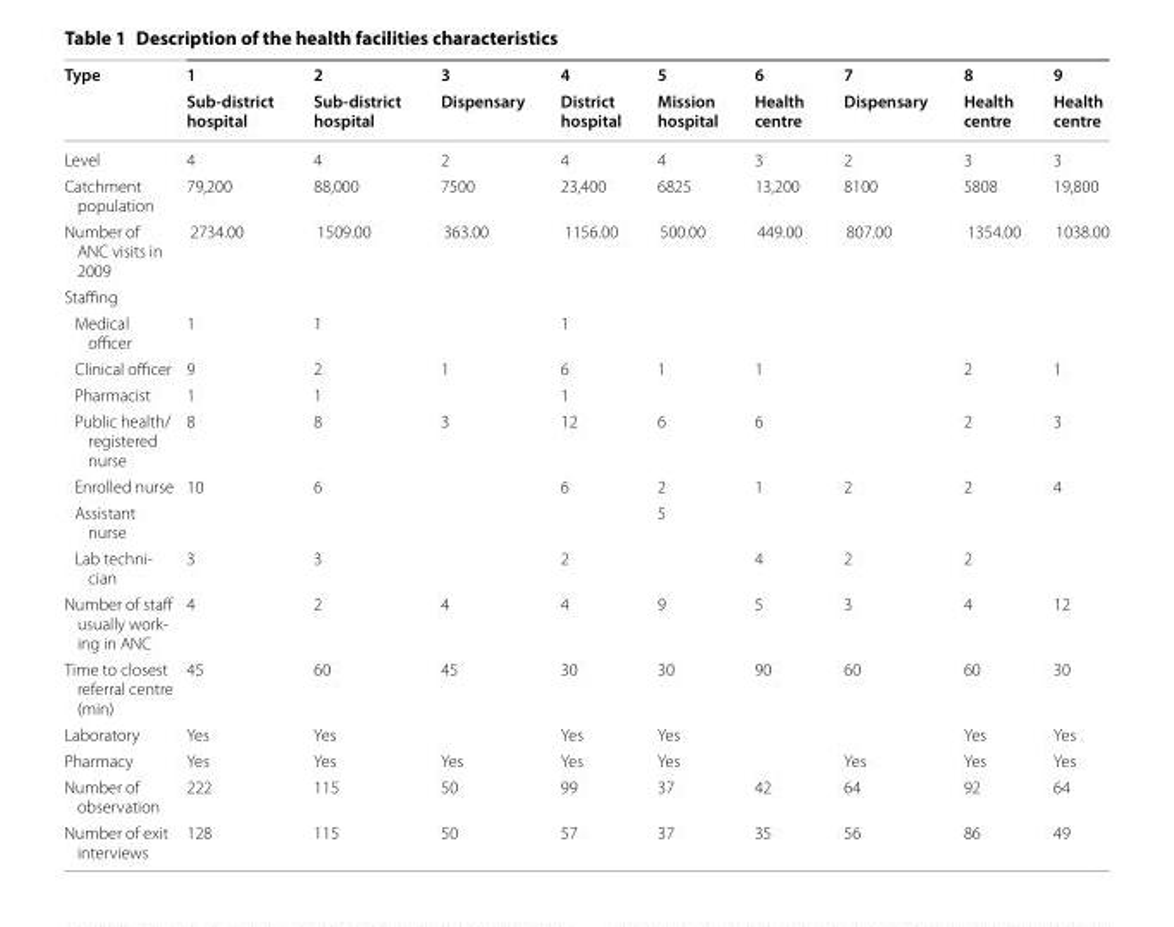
<table><thead><tr><td rowspan="2">Type</td><td rowspan="2">1 Sub‑district hospital</td><td rowspan="2">2 Sub‑district hospital</td><td rowspan="2">3 Dispensary</td><td rowspan="2">4 District hospital</td><td rowspan="2">5 Mission hospital</td><td rowspan="2">6 Health centre</td><td rowspan="2">7 Dispensary</td><td rowspan="2">8 Health centre</td><td rowspan="2">9 Health centre</td></tr><tr></tr></thead><tbody><tr><td>Level</td><td>4</td><td>4</td><td>2</td><td>4</td><td>4</td><td>3</td><td>2</td><td>3</td><td>3</td></tr><tr><td>Catchment population</td><td>79,200</td><td>88,000</td><td>7500</td><td>23,400</td><td>6825</td><td>13,200</td><td>8100</td><td>5808</td><td>19,800</td></tr><tr><td>Number of ANC visits in 2009</td><td>2734.00</td><td>1509.00</td><td>363.00</td><td>1156.00</td><td>500.00</td><td>449.00</td><td>807.00</td><td>1354.00</td><td>1038.00</td></tr><tr><td colspan="10">Staffing</td></tr><tr><td>Medical officer</td><td>1</td><td>1</td><td></td><td>1</td><td></td><td></td><td></td><td></td><td></td></tr><tr><td>Clinical officer</td><td>9</td><td>2</td><td>1</td><td>6</td><td>1</td><td>1</td><td></td><td>2</td><td>1</td></tr><tr><td>Pharmacist</td><td>1</td><td>1</td><td></td><td>1</td><td></td><td></td><td></td><td></td><td></td></tr><tr><td>Public health/ registered nurse</td><td>8</td><td>8</td><td>3</td><td>12</td><td>6</td><td>6</td><td></td><td>2</td><td>3</td></tr><tr><td>Enrolled nurse</td><td>10</td><td>6</td><td></td><td>6</td><td>2</td><td>1</td><td>2</td><td>2</td><td>4</td></tr><tr><td>Assistant nurse</td><td></td><td></td><td></td><td></td><td>5</td><td></td><td></td><td></td><td></td></tr><tr><td>Lab techni- cian</td><td>3</td><td>3</td><td></td><td>2</td><td></td><td>4</td><td>2</td><td>2</td><td></td></tr><tr><td>Number of staff usually work- ing in ANC</td><td>4</td><td>2</td><td>4</td><td>4</td><td>9</td><td>5</td><td>3</td><td>4</td><td>12</td></tr><tr><td>Time to closest referral centre (min)</td><td>45</td><td>60</td><td>45</td><td>30</td><td>30</td><td>90</td><td>60</td><td>60</td><td>30</td></tr><tr><td>Laboratory</td><td>Yes</td><td>Yes</td><td></td><td>Yes</td><td>Yes</td><td></td><td></td><td>Yes</td><td>Yes</td></tr><tr><td>Pharmacy</td><td>Yes</td><td>Yes</td><td>Yes</td><td>Yes</td><td>Yes</td><td></td><td>Yes</td><td>Yes</td><td>Yes</td></tr><tr><td>Number of observation</td><td>222</td><td>115</td><td>50</td><td>99</td><td>37</td><td>42</td><td>64</td><td>92</td><td>64</td></tr><tr><td>Number of exit interviews</td><td>128</td><td>115</td><td>50</td><td>57</td><td>37</td><td>35</td><td>56</td><td>86</td><td>49</td></tr></tbody></table>